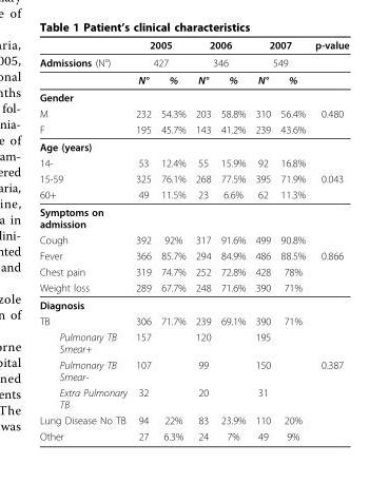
<table><thead><tr><td rowspan="3">Admissions (N°)</td><td rowspan="2" colspan="2">2005 427</td><td rowspan="2" colspan="2">2006 346</td><td rowspan="2" colspan="2">2007 549</td><td rowspan="3">p-value</td></tr><tr></tr><tr><td>N°</td><td>%</td><td>N°</td><td>%</td><td>N°</td><td>%</td></tr></thead><tbody><tr><td colspan="8">Gender</td></tr><tr><td>M</td><td>232</td><td>54.3%</td><td>203</td><td>58.8%</td><td>310</td><td>56.4%</td><td>0.480</td></tr><tr><td>F</td><td>195</td><td>45.7%</td><td>143</td><td>41.2%</td><td>239</td><td>43.6%</td><td></td></tr><tr><td colspan="8">Age (years)</td></tr><tr><td>14-</td><td>53</td><td>12.4%</td><td>55</td><td>15.9%</td><td>92</td><td>16.8%</td><td></td></tr><tr><td>15-59</td><td>325</td><td>76.1%</td><td>268</td><td>77.5%</td><td>395</td><td>71.9%</td><td>0.043</td></tr><tr><td>60+</td><td>49</td><td>11.5%</td><td>23</td><td>6.6%</td><td>62</td><td>11.3%</td><td></td></tr><tr><td colspan="8">Symptoms on admission</td></tr><tr><td>Cough</td><td>392</td><td>92%</td><td>317</td><td>91.6%</td><td>499</td><td>90.8%</td><td></td></tr><tr><td>Fever</td><td>366</td><td>85.7%</td><td>294</td><td>84.9%</td><td>486</td><td>88.5%</td><td>0.866</td></tr><tr><td>Chest pain</td><td>319</td><td>74.7%</td><td>252</td><td>72.8%</td><td>428</td><td>78%</td><td></td></tr><tr><td>Weight loss</td><td>289</td><td>67.7%</td><td>248</td><td>71.6%</td><td>390</td><td>71%</td><td></td></tr><tr><td colspan="8">Diagnosis</td></tr><tr><td>TB</td><td>306</td><td>71.7%</td><td>239</td><td>69.1%</td><td>390</td><td>71%</td><td></td></tr><tr><td>Pulmonary TB Smear+</td><td>157</td><td></td><td>120</td><td></td><td>195</td><td></td><td></td></tr><tr><td>Pulmonary TB Smear-</td><td>107</td><td></td><td>99</td><td></td><td>150</td><td></td><td>0.387</td></tr><tr><td>Extra Pulmonary TB</td><td>32</td><td></td><td>20</td><td></td><td>31</td><td></td><td></td></tr><tr><td>Lung Disease No TB</td><td>94</td><td>22%</td><td>83</td><td>23.9%</td><td>110</td><td>20%</td><td></td></tr><tr><td>Other</td><td>27</td><td>6.3%</td><td>24</td><td>7%</td><td>49</td><td>9%</td><td></td></tr></tbody></table>